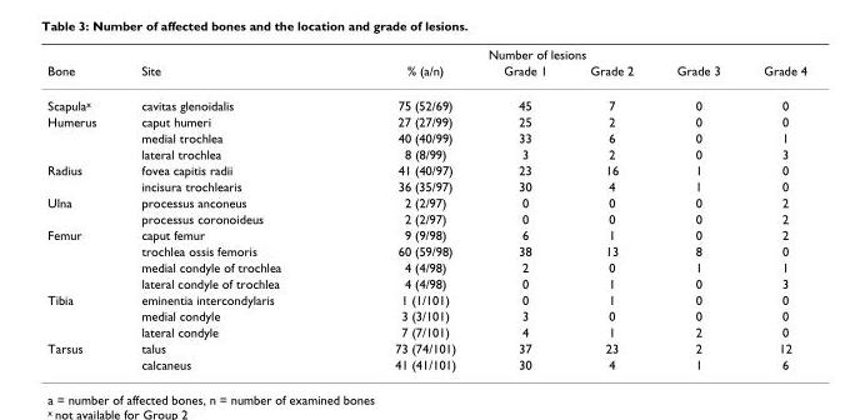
<table><thead><tr><td rowspan="2">Bone</td><td rowspan="2">Site</td><td rowspan="2">% (a/n)</td><td colspan="4">Number of lesions</td></tr><tr><td>Grade 1</td><td>Grade 2</td><td>Grade 3</td><td>Grade 4</td></tr></thead><tbody><tr><td>Scapula<sup>x</sup></td><td>cavitas glenoidalis</td><td>75 (52/69)</td><td>45</td><td>7</td><td>0</td><td>0</td></tr><tr><td rowspan="3">Humerus</td><td>caput humeri</td><td>27 (27/99)</td><td>25</td><td>2</td><td>0</td><td>0</td></tr><tr><td>medial trochlea</td><td>40 (40/99)</td><td>33</td><td>6</td><td>0</td><td>1</td></tr><tr><td>lateral trochlea</td><td>8 (8/99)</td><td>3</td><td>2</td><td>0</td><td>3</td></tr><tr><td rowspan="2">Radius</td><td>fovea capitis radii</td><td>41 (40/97)</td><td>23</td><td>16</td><td>1</td><td>0</td></tr><tr><td>incisura trochlearis</td><td>36 (35/97)</td><td>30</td><td>4</td><td>1</td><td>0</td></tr><tr><td rowspan="2">Ulna</td><td>processus anconeus</td><td>2 (2/97)</td><td>0</td><td>0</td><td>0</td><td>2</td></tr><tr><td>processus coronoideus</td><td>2 (2/97)</td><td>0</td><td>0</td><td>0</td><td>2</td></tr><tr><td rowspan="4">Femur</td><td>caput femur</td><td>9 (9/98)</td><td>6</td><td>1</td><td>0</td><td>2</td></tr><tr><td>trochlea ossis femoris</td><td>60 (59/98)</td><td>38</td><td>13</td><td>8</td><td>0</td></tr><tr><td>medial condyle of trochlea</td><td>4 (4/98)</td><td>2</td><td>0</td><td>1</td><td>1</td></tr><tr><td>lateral condyle of trochlea</td><td>4 (4/98)</td><td>0</td><td>1</td><td>0</td><td>3</td></tr><tr><td rowspan="3">Tibia</td><td>eminentia intercondylaris</td><td>1 (1/101)</td><td>0</td><td>1</td><td>0</td><td>0</td></tr><tr><td>medial condyle</td><td>3 (3/101)</td><td>3</td><td>0</td><td>0</td><td>0</td></tr><tr><td>lateral condyle</td><td>7 (7/101)</td><td>4</td><td>1</td><td>2</td><td>0</td></tr><tr><td rowspan="2">Tarsus</td><td>talus</td><td>73 (74/101)</td><td>37</td><td>23</td><td>2</td><td>12</td></tr><tr><td>calcaneus</td><td>41 (41/101)</td><td>30</td><td>4</td><td>1</td><td>6</td></tr></tbody></table>